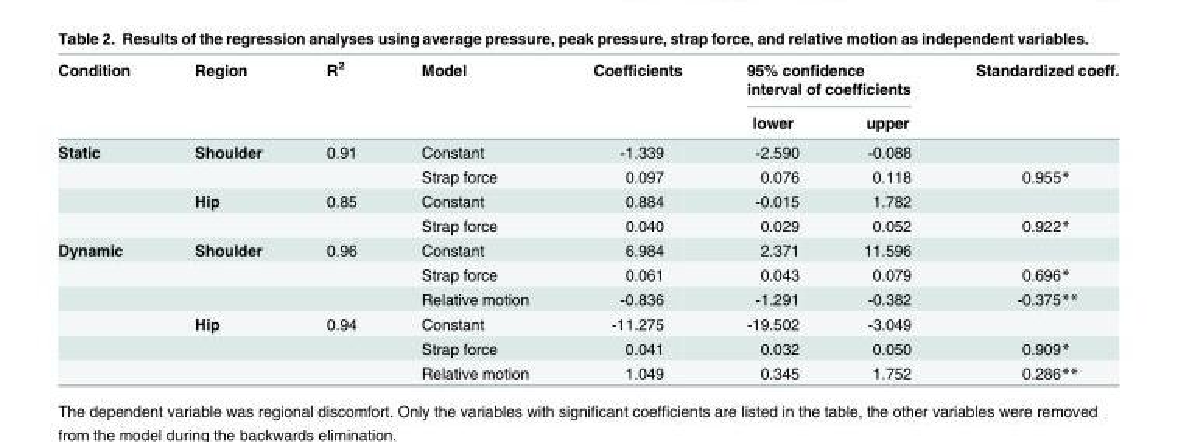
<table><thead><tr><td rowspan="2">Condition</td><td rowspan="2">Region</td><td rowspan="2">R<sup>2</sup></td><td rowspan="2">Model</td><td rowspan="2">Coefficients</td><td colspan="2">95% confidence interval of coefficients</td><td rowspan="2">Standardized coeff.</td></tr><tr><td>lower</td><td>upper</td></tr></thead><tbody><tr><td rowspan="4">Static</td><td>Shoulder</td><td>0.91</td><td>Constant</td><td>-1.339</td><td>-2.590</td><td>-0.088</td><td></td></tr><tr><td></td><td></td><td>Strap force</td><td>0.097</td><td>0.076</td><td>0.118</td><td>0.955*</td></tr><tr><td>Hip</td><td>0.85</td><td>Constant</td><td>0.884</td><td>-0.015</td><td>1.782</td><td></td></tr><tr><td></td><td></td><td>Strap force</td><td>0.040</td><td>0.029</td><td>0.052</td><td>0.922*</td></tr><tr><td rowspan="6">Dynamic</td><td>Shoulder</td><td>0.96</td><td>Constant</td><td>6.984</td><td>2.371</td><td>11.596</td><td></td></tr><tr><td></td><td></td><td>Strap force</td><td>0.061</td><td>0.043</td><td>0.079</td><td>0.696*</td></tr><tr><td></td><td></td><td>Relative motion</td><td>-0.836</td><td>-1.291</td><td>-0.382</td><td>-0.375**</td></tr><tr><td>Hip</td><td>0.94</td><td>Constant</td><td>-11.275</td><td>-19.502</td><td>-3.049</td><td></td></tr><tr><td></td><td></td><td>Strap force</td><td>0.041</td><td>0.032</td><td>0.050</td><td>0.909*</td></tr><tr><td></td><td></td><td>Relative motion</td><td>1.049</td><td>0.345</td><td>1.752</td><td>0.286**</td></tr></tbody></table>